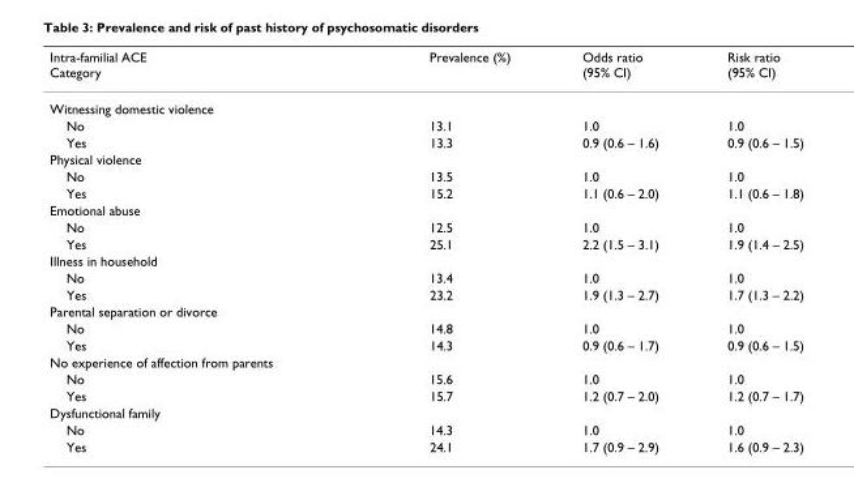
<table><thead><tr><td>Intra-familial ACE Category</td><td>Prevalence (%)</td><td>Odds ratio (95% CI)</td><td>Risk ratio (95% CI)</td></tr></thead><tbody><tr><td colspan="4">Witnessing domestic violence</td></tr><tr><td>No</td><td>13.1</td><td>1.0</td><td>1.0</td></tr><tr><td>Yes</td><td>13.3</td><td>0.9 (0.6 – 1.6)</td><td>0.9 (0.6 – 1.5)</td></tr><tr><td colspan="4">Physical violence</td></tr><tr><td>No</td><td>13.5</td><td>1.0</td><td>1.0</td></tr><tr><td>Yes</td><td>15.2</td><td>1.1 (0.6 – 2.0)</td><td>1.1 (0.6 – 1.8)</td></tr><tr><td colspan="4">Emotional abuse</td></tr><tr><td>No</td><td>12.5</td><td>1.0</td><td>1.0</td></tr><tr><td>Yes</td><td>25.1</td><td>2.2 (1.5 – 3.1)</td><td>1.9 (1.4 – 2.5)</td></tr><tr><td colspan="4">Illness in household</td></tr><tr><td>No</td><td>13.4</td><td>1.0</td><td>1.0</td></tr><tr><td>Yes</td><td>23.2</td><td>1.9 (1.3 – 2.7)</td><td>1.7 (1.3 – 2.2)</td></tr><tr><td colspan="4">Parental separation or divorce</td></tr><tr><td>No</td><td>14.8</td><td>1.0</td><td>1.0</td></tr><tr><td>Yes</td><td>14.3</td><td>0.9 (0.6 – 1.7)</td><td>0.9 (0.6 – 1.5)</td></tr><tr><td colspan="4">No experience of affection from parents</td></tr><tr><td>No</td><td>15.6</td><td>1.0</td><td>1.0</td></tr><tr><td>Yes</td><td>15.7</td><td>1.2 (0.7 – 2.0)</td><td>1.2 (0.7 – 1.7)</td></tr><tr><td colspan="4">Dysfunctional family</td></tr><tr><td>No</td><td>14.3</td><td>1.0</td><td>1.0</td></tr><tr><td>Yes</td><td>24.1</td><td>1.7 (0.9 – 2.9)</td><td>1.6 (0.9 – 2.3)</td></tr></tbody></table>